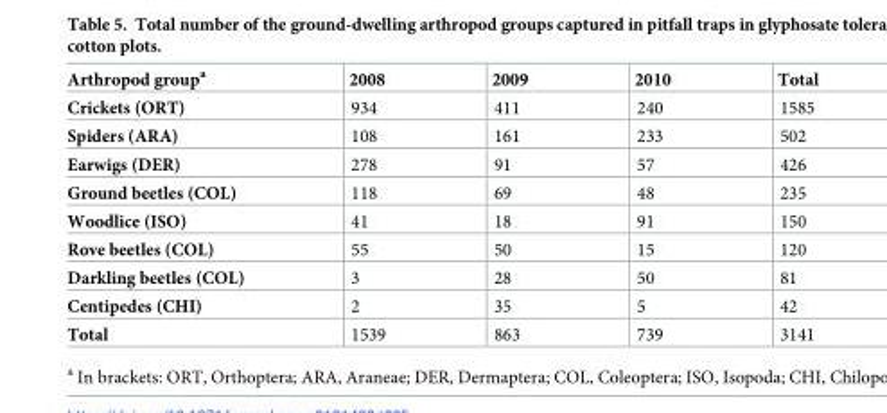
<table><thead><tr><td>Arthropod group<sup>a</sup></td><td>2008</td><td>2009</td><td>2010</td><td>Total</td></tr></thead><tbody><tr><td>Crickets (ORT)</td><td>934</td><td>411</td><td>240</td><td>1585</td></tr><tr><td>Spiders (ARA)</td><td>108</td><td>161</td><td>233</td><td>502</td></tr><tr><td>Earwigs (DER)</td><td>278</td><td>91</td><td>57</td><td>426</td></tr><tr><td>Ground beetles (COL)</td><td>118</td><td>69</td><td>48</td><td>235</td></tr><tr><td>Woodlice (ISO)</td><td>41</td><td>18</td><td>91</td><td>150</td></tr><tr><td>Rove beetles (COL)</td><td>55</td><td>50</td><td>15</td><td>120</td></tr><tr><td>Darkling beetles (COL)</td><td>3</td><td>28</td><td>50</td><td>81</td></tr><tr><td>Centipedes (CHI)</td><td>2</td><td>35</td><td>5</td><td>42</td></tr><tr><td>Total</td><td>1539</td><td>863</td><td>739</td><td>3141</td></tr></tbody></table>